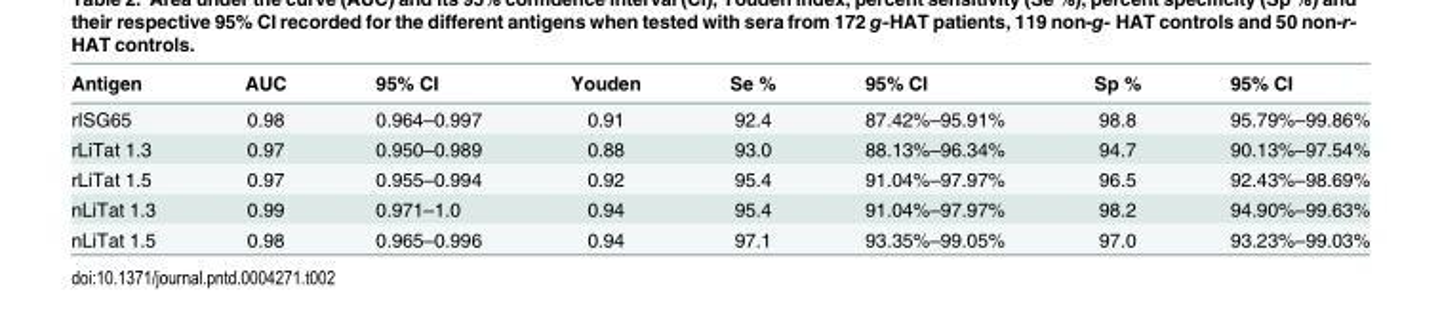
<table><thead><tr><td>Antigen</td><td>AUC</td><td>95% CI</td><td>Youden</td><td>Se %</td><td>95% CI</td><td>Sp %</td><td>95% CI</td></tr></thead><tbody><tr><td>rISG65</td><td>0.98</td><td>0.964–0.997</td><td>0.91</td><td>92.4</td><td>87.42%–95.91%</td><td>98.8</td><td>95.79%–99.86%</td></tr><tr><td>rLiTat 1.3</td><td>0.97</td><td>0.950–0.989</td><td>0.88</td><td>93.0</td><td>88.13%–96.34%</td><td>94.7</td><td>90.13%–97.54%</td></tr><tr><td>rLiTat 1.5</td><td>0.97</td><td>0.955–0.994</td><td>0.92</td><td>95.4</td><td>91.04%–97.97%</td><td>96.5</td><td>92.43%–98.69%</td></tr><tr><td>nLiTat 1.3</td><td>0.99</td><td>0.971–1.0</td><td>0.94</td><td>95.4</td><td>91.04%–97.97%</td><td>98.2</td><td>94.90%–99.63%</td></tr><tr><td>nLiTat 1.5</td><td>0.98</td><td>0.965–0.996</td><td>0.94</td><td>97.1</td><td>93.35%–99.05%</td><td>97.0</td><td>93.23%–99.03%</td></tr></tbody></table>